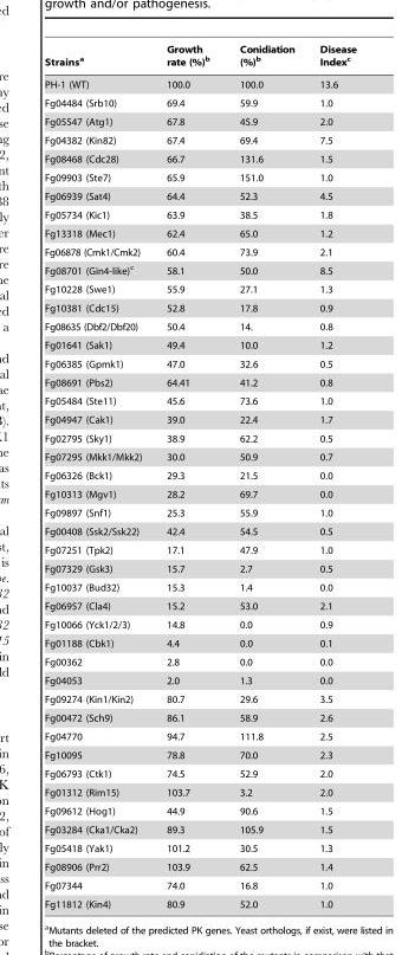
<table><thead><tr><td>Strains<sup>a</sup></td><td>Growth rate (%)<sup>b</sup></td><td>Conidiation (%)<sup>b</sup></td><td>Disease Index<sup>c</sup></td></tr></thead><tbody><tr><td>PH-1 (WT)</td><td>100.0</td><td>100.0</td><td>13.6</td></tr><tr><td>Fg04484 (Srb10)</td><td>69.4</td><td>59.9</td><td>1.0</td></tr><tr><td>Fg05547 (Atg1)</td><td>67.8</td><td>45.9</td><td>2.0</td></tr><tr><td>Fg04382 (Kin82)</td><td>67.4</td><td>69.4</td><td>7.5</td></tr><tr><td>Fg08468 (Cdc28)</td><td>66.7</td><td>131.6</td><td>1.5</td></tr><tr><td>Fg09903 (Ste7)</td><td>65.9</td><td>151.0</td><td>1.0</td></tr><tr><td>Fg06939 (Sat4)</td><td>64.4</td><td>52.3</td><td>4.5</td></tr><tr><td>Fg05734 (Kic1)</td><td>63.9</td><td>38.5</td><td>1.8</td></tr><tr><td>Fg13318 (Mec1)</td><td>62.4</td><td>65.0</td><td>1.2</td></tr><tr><td>Fg06878 (Cmk1/Cmk2)</td><td>60.4</td><td>73.9</td><td>2.1</td></tr><tr><td>Fg08701 (Gin4-like)<sup>c</sup></td><td>58.1</td><td>50.0</td><td>8.5</td></tr><tr><td>Fg10228 (Swe1)</td><td>55.9</td><td>27.1</td><td>1.3</td></tr><tr><td>Fg10381 (Cdc15)</td><td>52.8</td><td>17.8</td><td>0.9</td></tr><tr><td>Fg08635 (Dbf2/Dbf20)</td><td>50.4</td><td>14.</td><td>0.8</td></tr><tr><td>Fg01641 (Sak1)</td><td>49.4</td><td>10.0</td><td>1.2</td></tr><tr><td>Fg06385 (Gpmk1)</td><td>47.0</td><td>32.6</td><td>0.5</td></tr><tr><td>Fg08691 (Pbs2)</td><td>64.41</td><td>41.2</td><td>0.8</td></tr><tr><td>Fg05484 (Ste11)</td><td>45.6</td><td>73.6</td><td>1.0</td></tr><tr><td>Fg04947 (Cak1)</td><td>39.0</td><td>22.4</td><td>1.7</td></tr><tr><td>Fg02795 (Sky1)</td><td>38.9</td><td>62.2</td><td>0.5</td></tr><tr><td>Fg07295 (Mkk1/Mkk2)</td><td>30.0</td><td>50.9</td><td>0.7</td></tr><tr><td>Fg06326 (Bck1)</td><td>29.3</td><td>21.5</td><td>0.0</td></tr><tr><td>Fg10313 (Mgv1)</td><td>28.2</td><td>69.7</td><td>0.0</td></tr><tr><td>Fg09897 (Snf1)</td><td>25.3</td><td>55.9</td><td>1.0</td></tr><tr><td>Fg00408 (Ssk2/Ssk22)</td><td>42.4</td><td>54.5</td><td>0.5</td></tr><tr><td>Fg07251 (Tpk2)</td><td>17.1</td><td>47.9</td><td>1.0</td></tr><tr><td>Fg07329 (Gsk3)</td><td>15.7</td><td>2.7</td><td>0.5</td></tr><tr><td>Fg10037 (Bud32)</td><td>15.3</td><td>1.4</td><td>0.0</td></tr><tr><td>Fg06957 (Cla4)</td><td>15.2</td><td>53.0</td><td>2.1</td></tr><tr><td>Fg10066 (Yck1/2/3)</td><td>14.8</td><td>0.0</td><td>0.9</td></tr><tr><td>Fg01188 (Cbk1)</td><td>4.4</td><td>0.0</td><td>0.1</td></tr><tr><td>Fg00362</td><td>2.8</td><td>0.0</td><td>0.0</td></tr><tr><td>Fg04053</td><td>2.0</td><td>1.3</td><td>0.0</td></tr><tr><td>Fg09274 (Kin1/Kin2)</td><td>80.7</td><td>29.6</td><td>3.5</td></tr><tr><td>Fg00472 (Sch9)</td><td>86.1</td><td>58.9</td><td>2.6</td></tr><tr><td>Fg04770</td><td>94.7</td><td>111.8</td><td>2.5</td></tr><tr><td>Fg10095</td><td>78.8</td><td>70.0</td><td>2.3</td></tr><tr><td>Fg06793 (Ctk1)</td><td>74.5</td><td>52.9</td><td>2.0</td></tr><tr><td>Fg01312 (Rim15)</td><td>103.7</td><td>3.2</td><td>2.0</td></tr><tr><td>Fg09612 (Hog1)</td><td>44.9</td><td>90.6</td><td>1.5</td></tr><tr><td>Fg03284 (Cka1/Cka2)</td><td>89.3</td><td>105.9</td><td>1.5</td></tr><tr><td>Fg05418 (Yak1)</td><td>101.2</td><td>30.5</td><td>1.3</td></tr><tr><td>Fg08906 (Prr2)</td><td>103.9</td><td>62.5</td><td>1.4</td></tr><tr><td>Fg07344</td><td>74.0</td><td>16.8</td><td>1.0</td></tr><tr><td>Fg11812 (Kin4)</td><td>80.9</td><td>52.0</td><td>1.0</td></tr></tbody></table>